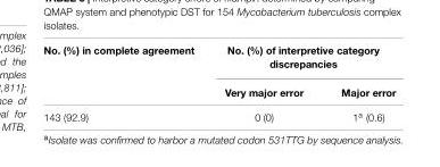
<table><thead><tr><td rowspan="2">No. (%) in complete agreement</td><td colspan="2">No. (%) of interpretive category discrepancies</td></tr><tr><td>Very major error</td><td>Major error</td></tr></thead><tbody><tr><td>143 (92.9)</td><td>0 (0)</td><td>1<sup>a</sup> (0.6)</td></tr></tbody></table>